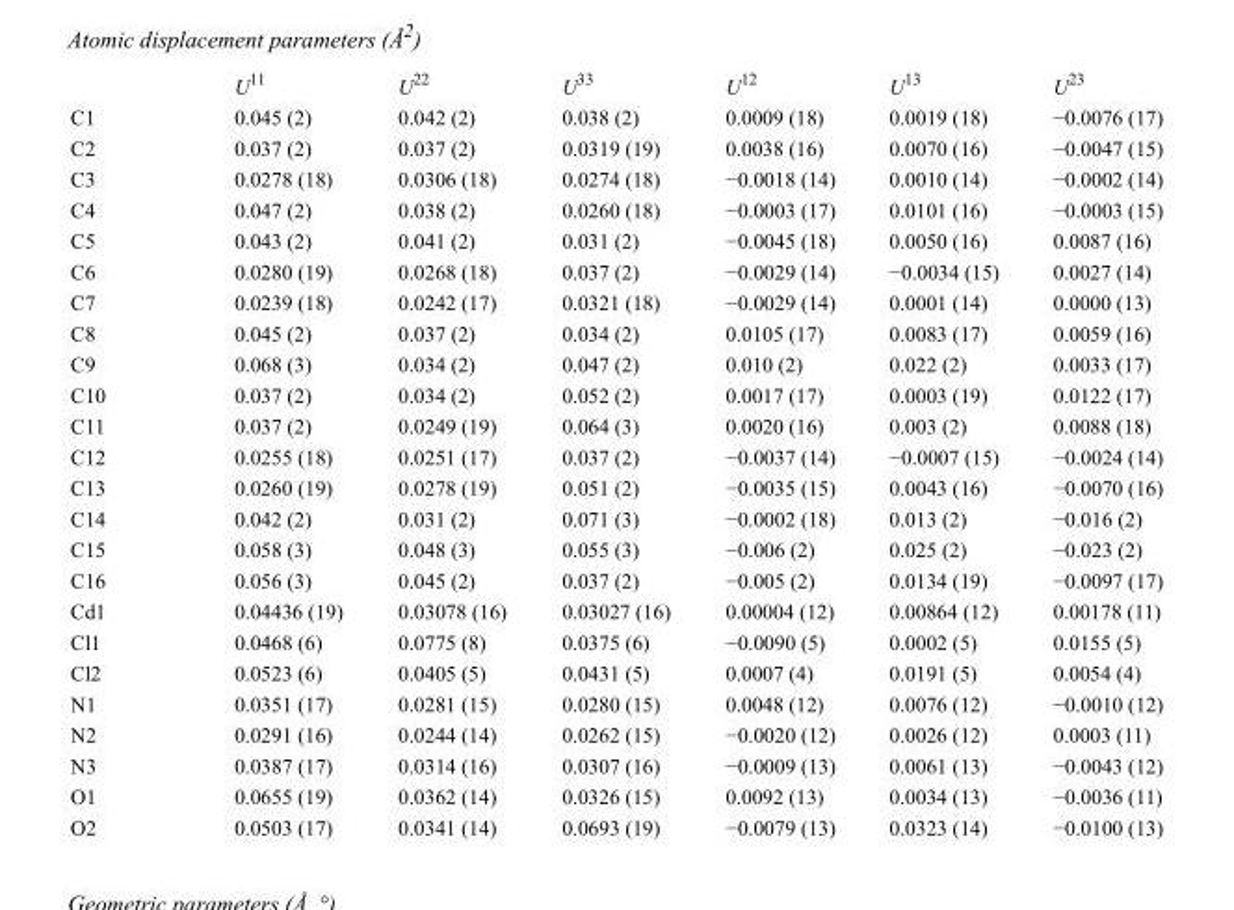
<table><thead><tr><td></td><td>U<sup>11</sup></td><td>U<sup>22</sup></td><td>U<sup>33</sup></td><td>U<sup>12</sup></td><td>U<sup>13</sup></td><td>U<sup>23</sup></td></tr></thead><tbody><tr><td>C1</td><td>0.045 (2)</td><td>0.042 (2)</td><td>0.038 (2)</td><td>0.0009 (18)</td><td>0.0019 (18)</td><td>−0.0076 (17)</td></tr><tr><td>C2</td><td>0.037 (2)</td><td>0.037 (2)</td><td>0.0319 (19)</td><td>0.0038 (16)</td><td>0.0070 (16)</td><td>−0.0047 (15)</td></tr><tr><td>C3</td><td>0.0278 (18)</td><td>0.0306 (18)</td><td>0.0274 (18)</td><td>−0.0018 (14)</td><td>0.0010 (14)</td><td>−0.0002 (14)</td></tr><tr><td>C4</td><td>0.047 (2)</td><td>0.038 (2)</td><td>0.0260 (18)</td><td>−0.0003 (17)</td><td>0.0101 (16)</td><td>−0.0003 (15)</td></tr><tr><td>C5</td><td>0.043 (2)</td><td>0.041 (2)</td><td>0.031 (2)</td><td>−0.0045 (18)</td><td>0.0050 (16)</td><td>0.0087 (16)</td></tr><tr><td>C6</td><td>0.0280 (19)</td><td>0.0268 (18)</td><td>0.037 (2)</td><td>−0.0029 (14)</td><td>−0.0034 (15)</td><td>0.0027 (14)</td></tr><tr><td>C7</td><td>0.0239 (18)</td><td>0.0242 (17)</td><td>0.0321 (18)</td><td>−0.0029 (14)</td><td>0.0001 (14)</td><td>0.0000 (13)</td></tr><tr><td>C8</td><td>0.045 (2)</td><td>0.037 (2)</td><td>0.034 (2)</td><td>0.0105 (17)</td><td>0.0083 (17)</td><td>0.0059 (16)</td></tr><tr><td>C9</td><td>0.068 (3)</td><td>0.034 (2)</td><td>0.047 (2)</td><td>0.010 (2)</td><td>0.022 (2)</td><td>0.0033 (17)</td></tr><tr><td>C10</td><td>0.037 (2)</td><td>0.034 (2)</td><td>0.052 (2)</td><td>0.0017 (17)</td><td>0.0003 (19)</td><td>0.0122 (17)</td></tr><tr><td>C11</td><td>0.037 (2)</td><td>0.0249 (19)</td><td>0.064 (3)</td><td>0.0020 (16)</td><td>0.003 (2)</td><td>0.0088 (18)</td></tr><tr><td>C12</td><td>0.0255 (18)</td><td>0.0251 (17)</td><td>0.037 (2)</td><td>−0.0037 (14)</td><td>−0.0007 (15)</td><td>−0.0024 (14)</td></tr><tr><td>C13</td><td>0.0260 (19)</td><td>0.0278 (19)</td><td>0.051 (2)</td><td>−0.0035 (15)</td><td>0.0043 (16)</td><td>−0.0070 (16)</td></tr><tr><td>C14</td><td>0.042 (2)</td><td>0.031 (2)</td><td>0.071 (3)</td><td>−0.0002 (18)</td><td>0.013 (2)</td><td>−0.016 (2)</td></tr><tr><td>C15</td><td>0.058 (3)</td><td>0.048 (3)</td><td>0.055 (3)</td><td>−0.006 (2)</td><td>0.025 (2)</td><td>−0.023 (2)</td></tr><tr><td>C16</td><td>0.056 (3)</td><td>0.045 (2)</td><td>0.037 (2)</td><td>−0.005 (2)</td><td>0.0134 (19)</td><td>−0.0097 (17)</td></tr><tr><td>Cd1</td><td>0.04436 (19)</td><td>0.03078 (16)</td><td>0.03027 (16)</td><td>0.00004 (12)</td><td>0.00864 (12)</td><td>0.00178 (11)</td></tr><tr><td>Cl1</td><td>0.0468 (6)</td><td>0.0775 (8)</td><td>0.0375 (6)</td><td>−0.0090 (5)</td><td>0.0002 (5)</td><td>0.0155 (5)</td></tr><tr><td>Cl2</td><td>0.0523 (6)</td><td>0.0405 (5)</td><td>0.0431 (5)</td><td>0.0007 (4)</td><td>0.0191 (5)</td><td>0.0054 (4)</td></tr><tr><td>N1</td><td>0.0351 (17)</td><td>0.0281 (15)</td><td>0.0280 (15)</td><td>0.0048 (12)</td><td>0.0076 (12)</td><td>−0.0010 (12)</td></tr><tr><td>N2</td><td>0.0291 (16)</td><td>0.0244 (14)</td><td>0.0262 (15)</td><td>−0.0020 (12)</td><td>0.0026 (12)</td><td>0.0003 (11)</td></tr><tr><td>N3</td><td>0.0387 (17)</td><td>0.0314 (16)</td><td>0.0307 (16)</td><td>−0.0009 (13)</td><td>0.0061 (13)</td><td>−0.0043 (12)</td></tr><tr><td>O1</td><td>0.0655 (19)</td><td>0.0362 (14)</td><td>0.0326 (15)</td><td>0.0092 (13)</td><td>0.0034 (13)</td><td>−0.0036 (11)</td></tr><tr><td>O2</td><td>0.0503 (17)</td><td>0.0341 (14)</td><td>0.0693 (19)</td><td>−0.0079 (13)</td><td>0.0323 (14)</td><td>−0.0100 (13)</td></tr></tbody></table>